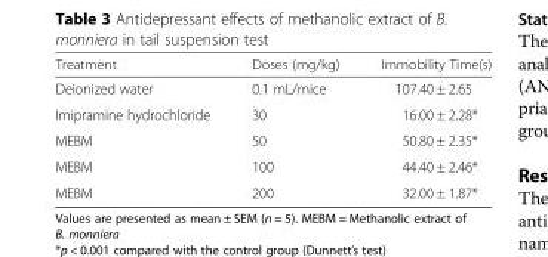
<table><thead><tr><td>Treatment</td><td>Doses (mg/kg)</td><td>Immobility Time(s)</td></tr></thead><tbody><tr><td>Deionized water</td><td>0.1 mL/mice</td><td>107.40 ± 2.65</td></tr><tr><td>Imipramine hydrochloride</td><td>30</td><td>16.00 ± 2.28*</td></tr><tr><td>MEBM</td><td>50</td><td>50.80 ± 2.35*</td></tr><tr><td>MEBM</td><td>100</td><td>44.40 ± 2.46*</td></tr><tr><td>MEBM</td><td>200</td><td>32.00 ± 1.87*</td></tr></tbody></table>